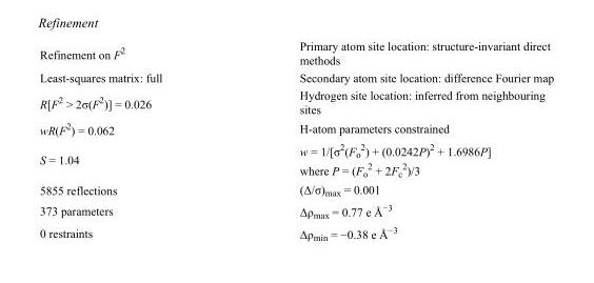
<table><tbody><tr><td>Refinement on F<sup>2</sup></td><td>Primary atom site location: structure-invariant direct methods</td></tr><tr><td>Least-squares matrix: full</td><td>Secondary atom site location: difference Fourier map</td></tr><tr><td>R[F<sup>2</sup> &gt; 2σ(F<sup>2</sup>)] = 0.026</td><td>Hydrogen site location: inferred from neighbouring sites</td></tr><tr><td>wR(F<sup>2</sup>) = 0.062</td><td>H-atom parameters constrained</td></tr><tr><td>S = 1.04</td><td>w = 1/[σ<sup>2</sup>(F<sub>o</sub> <sup>2</sup>) + (0.0242P)<sup>2</sup> + 1.6986P] where P = (F<sub>o</sub> <sup>2</sup> + 2F<sub>c</sub> <sup>2</sup>)/3</td></tr><tr><td>5855 reflections</td><td>(Δ/σ)<sub>max</sub> = 0.001</td></tr><tr><td>373 parameters</td><td>Δρ<sub>max</sub> = 0.77 e Å<sup>−3</sup></td></tr><tr><td>0 restraints</td><td>Δρ<sub>min</sub> = −0.38 e Å<sup>−3</sup></td></tr></tbody></table>